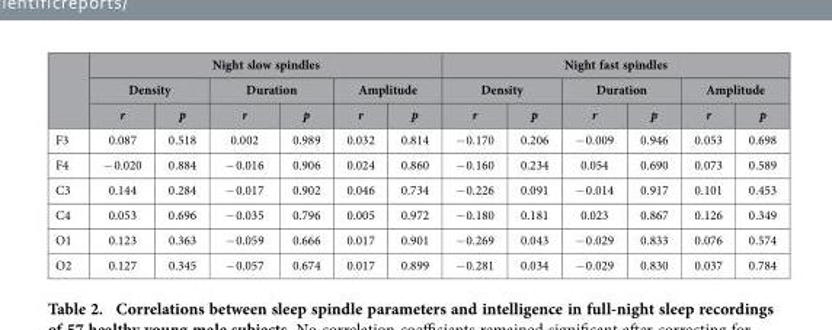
<table><thead><tr><td rowspan="3"></td><td colspan="6">Night slow spindles</td><td colspan="6">Night fast spindles</td></tr><tr><td colspan="2">Density</td><td colspan="2">Duration</td><td colspan="2">Amplitude</td><td colspan="2">Density</td><td colspan="2">Duration</td><td colspan="2">Amplitude</td></tr><tr><td>r</td><td>p</td><td>r</td><td>p</td><td>r</td><td>p</td><td>r</td><td>p</td><td>r</td><td>p</td><td>r</td><td>p</td></tr></thead><tbody><tr><td>F3</td><td>0.087</td><td>0.518</td><td>0.002</td><td>0.989</td><td>0.032</td><td>0.814</td><td>− 0.170</td><td>0.206</td><td>− 0.009</td><td>0.946</td><td>0.053</td><td>0.698</td></tr><tr><td>F4</td><td>− 0.020</td><td>0.884</td><td>− 0.016</td><td>0.906</td><td>0.024</td><td>0.860</td><td>− 0.160</td><td>0.234</td><td>0.054</td><td>0.690</td><td>0.073</td><td>0.589</td></tr><tr><td>C3</td><td>0.144</td><td>0.284</td><td>− 0.017</td><td>0.902</td><td>0.046</td><td>0.734</td><td>− 0.226</td><td>0.091</td><td>− 0.014</td><td>0.917</td><td>0.101</td><td>0.453</td></tr><tr><td>C4</td><td>0.053</td><td>0.696</td><td>− 0.035</td><td>0.796</td><td>0.005</td><td>0.972</td><td>− 0.180</td><td>0.181</td><td>0.023</td><td>0.867</td><td>0.126</td><td>0.349</td></tr><tr><td>O1</td><td>0.123</td><td>0.363</td><td>− 0.059</td><td>0.666</td><td>0.017</td><td>0.901</td><td>− 0.269</td><td>0.043</td><td>− 0.029</td><td>0.833</td><td>0.076</td><td>0.574</td></tr><tr><td>O2</td><td>0.127</td><td>0.345</td><td>− 0.057</td><td>0.674</td><td>0.017</td><td>0.899</td><td>− 0.281</td><td>0.034</td><td>− 0.029</td><td>0.830</td><td>0.037</td><td>0.784</td></tr></tbody></table>